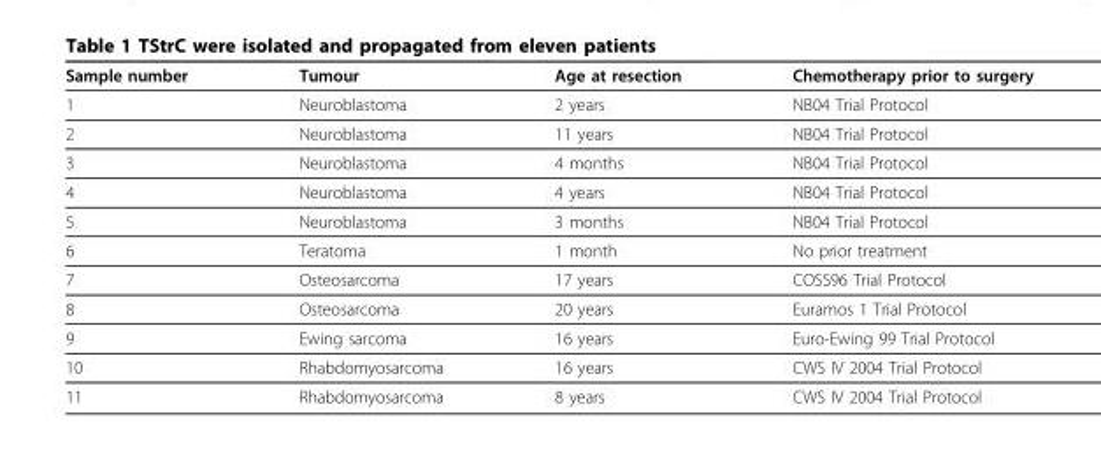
<table><thead><tr><td>Sample number</td><td>Tumour</td><td>Age at resection</td><td>Chemotherapy prior to surgery</td></tr></thead><tbody><tr><td>1</td><td>Neuroblastoma</td><td>2 years</td><td>NB04 Trial Protocol</td></tr><tr><td>2</td><td>Neuroblastoma</td><td>11 years</td><td>NB04 Trial Protocol</td></tr><tr><td>3</td><td>Neuroblastoma</td><td>4 months</td><td>NB04 Trial Protocol</td></tr><tr><td>4</td><td>Neuroblastoma</td><td>4 years</td><td>NB04 Trial Protocol</td></tr><tr><td>5</td><td>Neuroblastoma</td><td>3 months</td><td>NB04 Trial Protocol</td></tr><tr><td>6</td><td>Teratoma</td><td>1 month</td><td>No prior treatment</td></tr><tr><td>7</td><td>Osteosarcoma</td><td>17 years</td><td>COSS96 Trial Protocol</td></tr><tr><td>8</td><td>Osteosarcoma</td><td>20 years</td><td>Euramos 1 Trial Protocol</td></tr><tr><td>9</td><td>Ewing sarcoma</td><td>16 years</td><td>Euro-Ewing 99 Trial Protocol</td></tr><tr><td>10</td><td>Rhabdomyosarcoma</td><td>16 years</td><td>CWS IV 2004 Trial Protocol</td></tr><tr><td>11</td><td>Rhabdomyosarcoma</td><td>8 years</td><td>CWS IV 2004 Trial Protocol</td></tr></tbody></table>